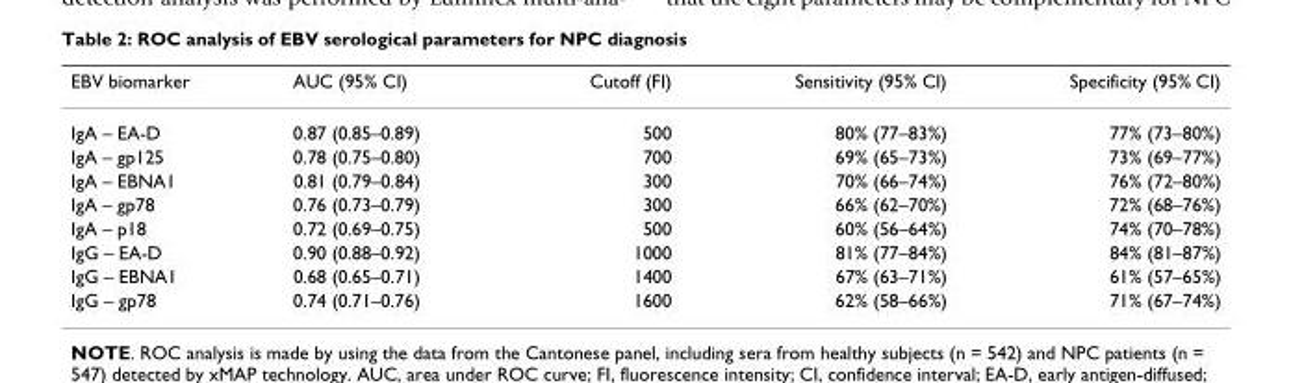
<table><thead><tr><td>EBV biomarker</td><td>AUC (95% CI)</td><td>Cutoff (FI)</td><td>Sensitivity (95% CI)</td><td>Specificity (95% CI)</td></tr></thead><tbody><tr><td>IgA – EA-D</td><td>0.87 (0.85–0.89)</td><td>500</td><td>80% (77–83%)</td><td>77% (73–80%)</td></tr><tr><td>IgA – gp125</td><td>0.78 (0.75–0.80)</td><td>700</td><td>69% (65–73%)</td><td>73% (69–77%)</td></tr><tr><td>IgA – EBNA1</td><td>0.81 (0.79–0.84)</td><td>300</td><td>70% (66–74%)</td><td>76% (72–80%)</td></tr><tr><td>IgA – gp78</td><td>0.76 (0.73–0.79)</td><td>300</td><td>66% (62–70%)</td><td>72% (68–76%)</td></tr><tr><td>IgA – p18</td><td>0.72 (0.69–0.75)</td><td>500</td><td>60% (56–64%)</td><td>74% (70–78%)</td></tr><tr><td>IgG – EA-D</td><td>0.90 (0.88–0.92)</td><td>1000</td><td>81% (77–84%)</td><td>84% (81–87%)</td></tr><tr><td>IgG – EBNA1</td><td>0.68 (0.65–0.71)</td><td>1400</td><td>67% (63–71%)</td><td>61% (57–65%)</td></tr><tr><td>IgG – gp78</td><td>0.74 (0.71–0.76)</td><td>1600</td><td>62% (58–66%)</td><td>71% (67–74%)</td></tr></tbody></table>